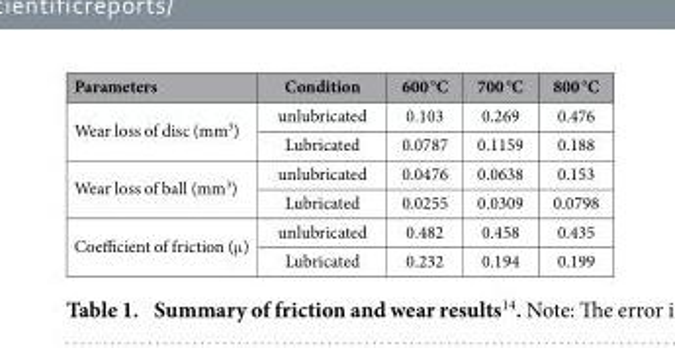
<table><thead><tr><td>Parameters</td><td>Condition</td><td>600 °C</td><td>700 °C</td><td>800 °C</td></tr></thead><tbody><tr><td rowspan="2">Wear loss of disc (mm<sup>3</sup>)</td><td>unlubricated</td><td>0.103</td><td>0.269</td><td>0.476</td></tr><tr><td>Lubricated</td><td>0.0787</td><td>0.1159</td><td>0.188</td></tr><tr><td rowspan="2">Wear loss of ball (mm<sup>3</sup>)</td><td>unlubricated</td><td>0.0476</td><td>0.0638</td><td>0.153</td></tr><tr><td>Lubricated</td><td>0.0255</td><td>0.0309</td><td>0.0798</td></tr><tr><td rowspan="2">Coefficient of friction (μ )</td><td>unlubricated</td><td>0.482</td><td>0.458</td><td>0.435</td></tr><tr><td>Lubricated</td><td>0.232</td><td>0.194</td><td>0.199</td></tr></tbody></table>